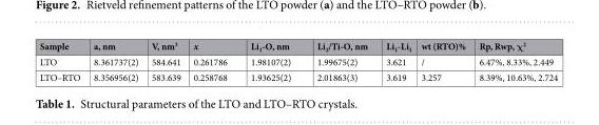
<table><thead><tr><td>Sample</td><td>a, nm</td><td>V, nm<sup>3</sup></td><td>x</td><td>Li<sub>1</sub>-O, nm</td><td>Li<sub>2</sub>/Ti-O, nm</td><td>Li<sub>1</sub>-Li<sub>1</sub></td><td>wt (RTO)%</td><td>Rp, Rwp, χ<sup>2</sup></td></tr></thead><tbody><tr><td>LTO</td><td>8.361737(2)</td><td>584.641</td><td>0.261786</td><td>1.98107(2)</td><td>1.99675(2)</td><td>3.621</td><td>/</td><td>6.47%, 8.33%, 2.449</td></tr><tr><td>LTO–RTO</td><td>8.356956(2)</td><td>583.639</td><td>0.258768</td><td>1.93625(2)</td><td>2.01863(3)</td><td>3.619</td><td>3.257</td><td>8.39%, 10.63%, 2.724</td></tr></tbody></table>